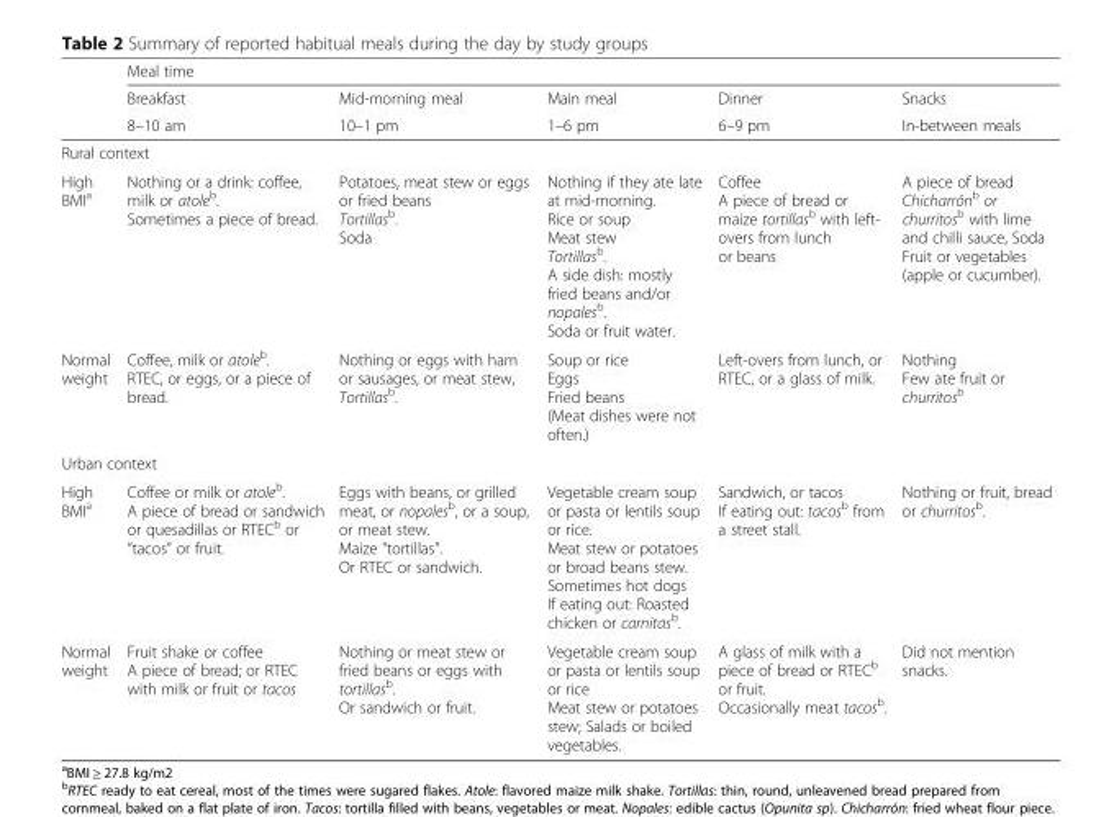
<table><thead><tr><td rowspan="3"></td><td colspan="5">Meal time</td></tr><tr><td rowspan="2">Breakfast 8–10 am</td><td rowspan="2">Mid-morning meal 10–1 pm</td><td rowspan="2">Main meal 1–6 pm</td><td rowspan="2">Dinner 6–9 pm</td><td rowspan="2">Snacks In-between meals</td></tr><tr></tr></thead><tbody><tr><td colspan="6">Rural context</td></tr><tr><td>High BMI<sup>a</sup></td><td>Nothing or a drink: coffee, milk or atole<sup>b</sup>. Sometimes a piece of bread.</td><td>Potatoes, meat stew or eggs or fried beans Tortillas<sup>b</sup>. Soda</td><td>Nothing if they ate late at mid-morning. Rice or soup Meat stew Tortillas<sup>b</sup>. A side dish: mostly fried beans and/or nopales<sup>b</sup>. Soda or fruit water.</td><td>Coffee A piece of bread or maize tortillas<sup>b</sup> with left- overs from lunch or beans</td><td>A piece of bread Chicharrón<sup>b</sup> or churritos<sup>b</sup> with lime and chilli sauce, Soda Fruit or vegetables (apple or cucumber).</td></tr><tr><td>Normal weight</td><td>Coffee, milk or atole<sup>b</sup>. RTEC, or eggs, or a piece of bread.</td><td>Nothing or eggs with ham or sausages, or meat stew, Tortillas<sup>b</sup>.</td><td>Soup or rice Eggs Fried beans (Meat dishes were not often.)</td><td>Left-overs from lunch, or RTEC, or a glass of milk.</td><td>Nothing Few ate fruit or churritos<sup>b</sup></td></tr><tr><td colspan="6">Urban context</td></tr><tr><td>High BMI<sup>a</sup></td><td>Coffee or milk or atole<sup>b</sup>. A piece of bread or sandwich or quesadillas or RTEC<sup>b</sup> or “tacos” or fruit.</td><td>Eggs with beans, or grilled meat, or nopales<sup>b</sup>, or a soup, or meat stew. Maize &quot;tortillas&quot;. Or RTEC or sandwich.</td><td>Vegetable cream soup or pasta or lentils soup or rice. Meat stew or potatoes or broad beans stew. Sometimes hot dogs If eating out: Roasted chicken or carnitas<sup>b</sup>.</td><td>Sandwich, or tacos If eating out: tacos<sup>b</sup> from a street stall.</td><td>Nothing or fruit, bread or churritos<sup>b</sup>.</td></tr><tr><td>Normal weight</td><td>Fruit shake or coffee A piece of bread; or RTEC with milk or fruit or tacos</td><td>Nothing or meat stew or fried beans or eggs with tortillas<sup>b</sup>. Or sandwich or fruit.</td><td>Vegetable cream soup or pasta or lentils soup or rice Meat stew or potatoes stew; Salads or boiled vegetables.</td><td>A glass of milk with a piece of bread or RTEC<sup>b</sup> or fruit. Occasionally meat tacos<sup>b</sup>.</td><td>Did not mention snacks.</td></tr></tbody></table>